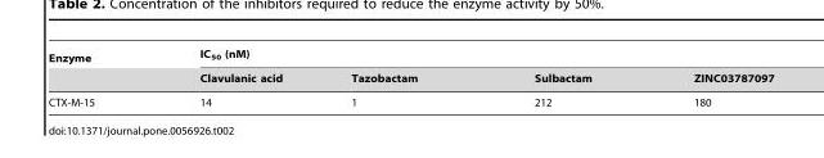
<table><thead><tr><td rowspan="2">Enzyme</td><td colspan="4">IC<sub>50</sub> (nM)</td></tr><tr><td>Clavulanic acid</td><td>Tazobactam</td><td>Sulbactam</td><td>ZINC03787097</td></tr></thead><tbody><tr><td>CTX-M-15</td><td>14</td><td>1</td><td>212</td><td>180</td></tr></tbody></table>